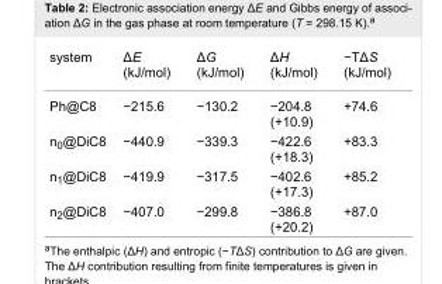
<table><tbody><tr><td>system</td><td>ΔE (kJ/mol)</td><td>ΔG (kJ/mol)</td><td>ΔH (kJ/mol)</td><td>−TΔS (kJ/mol)</td></tr><tr><td>Ph@C8</td><td>−215.6</td><td>−130.2</td><td>−204.8 (+10.9)</td><td>+74.6</td></tr><tr><td>n<sub>0</sub>@DiC8</td><td>−440.9</td><td>−339.3</td><td>−422.6 (+18.3)</td><td>+83.3</td></tr><tr><td>n<sub>1</sub>@DiC8</td><td>−419.9</td><td>−317.5</td><td>−402.6 (+17.3)</td><td>+85.2</td></tr><tr><td>n<sub>2</sub>@DiC8</td><td>−407.0</td><td>−299.8</td><td>−386.8 (+20.2)</td><td>+87.0</td></tr></tbody></table>